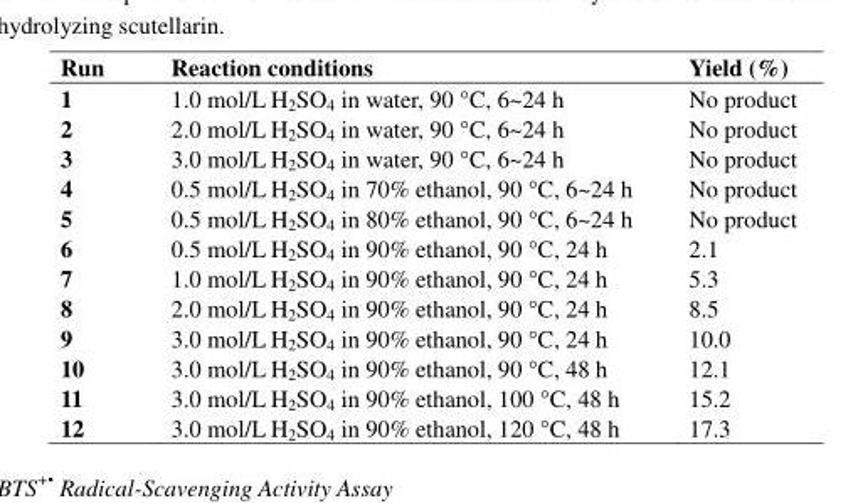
<table><thead><tr><td>Run</td><td>Reaction conditions</td><td>Yield (%)</td></tr></thead><tbody><tr><td>1</td><td>1.0 mol/L H<sub>2</sub>SO<sub>4</sub> in water, 90 °C, 6~24 h</td><td>No product</td></tr><tr><td>2</td><td>2.0 mol/L H<sub>2</sub>SO<sub>4</sub> in water, 90 °C, 6~24 h</td><td>No product</td></tr><tr><td>3</td><td>3.0 mol/L H<sub>2</sub>SO<sub>4</sub> in water, 90 °C, 6~24 h</td><td>No product</td></tr><tr><td>4</td><td>0.5 mol/L H<sub>2</sub>SO<sub>4</sub> in 70% ethanol, 90 °C, 6~24 h</td><td>No product</td></tr><tr><td>5</td><td>0.5 mol/L H<sub>2</sub>SO<sub>4</sub> in 80% ethanol, 90 °C, 6~24 h</td><td>No product</td></tr><tr><td>6</td><td>0.5 mol/L H<sub>2</sub>SO<sub>4</sub> in 90% ethanol, 90 °C, 24 h</td><td>2.1</td></tr><tr><td>7</td><td>1.0 mol/L H<sub>2</sub>SO<sub>4</sub> in 90% ethanol, 90 °C, 24 h</td><td>5.3</td></tr><tr><td>8</td><td>2.0 mol/L H<sub>2</sub>SO<sub>4</sub> in 90% ethanol, 90 °C, 24 h</td><td>8.5</td></tr><tr><td>9</td><td>3.0 mol/L H<sub>2</sub>SO<sub>4</sub> in 90% ethanol, 90 °C, 24 h</td><td>10.0</td></tr><tr><td>10</td><td>3.0 mol/L H<sub>2</sub>SO<sub>4</sub> in 90% ethanol, 90 °C, 48 h</td><td>12.1</td></tr><tr><td>11</td><td>3.0 mol/L H<sub>2</sub>SO<sub>4</sub> in 90% ethanol, 100 °C, 48 h</td><td>15.2</td></tr><tr><td>12</td><td>3.0 mol/L H<sub>2</sub>SO<sub>4</sub> in 90% ethanol, 120 °C, 48 h</td><td>17.3</td></tr></tbody></table>